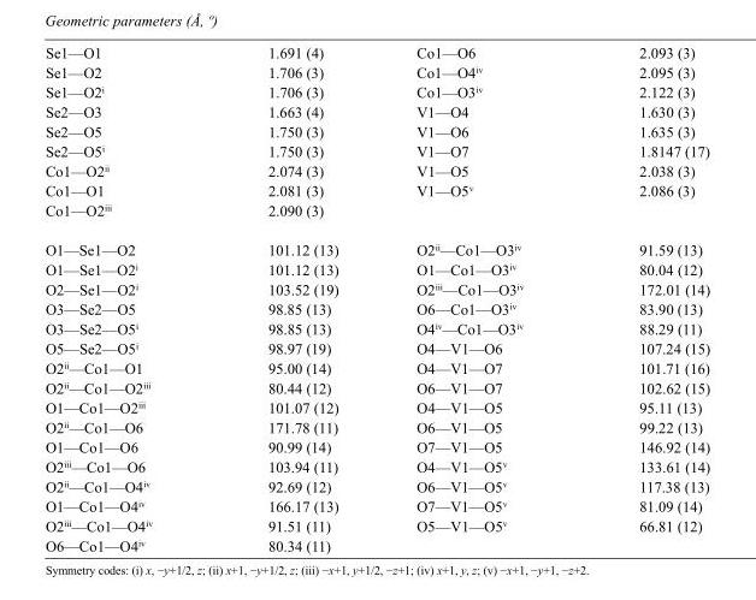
<table><tbody><tr><td>Se1—O1</td><td>1.691 (4)</td><td>Co1—O6</td><td>2.093 (3)</td></tr><tr><td>Se1—O2</td><td>1.706 (3)</td><td>Co1—O4<sup>iv</sup></td><td>2.095 (3)</td></tr><tr><td>Se1—O2<sup>i</sup></td><td>1.706 (3)</td><td>Co1—O3<sup>iv</sup></td><td>2.122 (3)</td></tr><tr><td>Se2—O3</td><td>1.663 (4)</td><td>V1—O4</td><td>1.630 (3)</td></tr><tr><td>Se2—O5</td><td>1.750 (3)</td><td>V1—O6</td><td>1.635 (3)</td></tr><tr><td>Se2—O5<sup>i</sup></td><td>1.750 (3)</td><td>V1—O7</td><td>1.8147 (17)</td></tr><tr><td>Co1—O2<sup>ii</sup></td><td>2.074 (3)</td><td>V1—O5</td><td>2.038 (3)</td></tr><tr><td>Co1—O1</td><td>2.081 (3)</td><td>V1—O5<sup>v</sup></td><td>2.086 (3)</td></tr><tr><td>Co1—O2<sup>iii</sup></td><td>2.090 (3)</td><td></td><td></td></tr><tr><td>O1—Se1—O2</td><td>101.12 (13)</td><td>O2<sup>ii</sup>—Co1—O3<sup>iv</sup></td><td>91.59 (13)</td></tr><tr><td>O1—Se1—O2<sup>i</sup></td><td>101.12 (13)</td><td>O1—Co1—O3<sup>iv</sup></td><td>80.04 (12)</td></tr><tr><td>O2—Se1—O2<sup>i</sup></td><td>103.52 (19)</td><td>O2<sup>iii</sup>—Co1—O3<sup>iv</sup></td><td>172.01 (14)</td></tr><tr><td>O3—Se2—O5</td><td>98.85 (13)</td><td>O6—Co1—O3<sup>iv</sup></td><td>83.90 (13)</td></tr><tr><td>O3—Se2—O5<sup>i</sup></td><td>98.85 (13)</td><td>O4<sup>iv</sup>—Co1—O3<sup>iv</sup></td><td>88.29 (11)</td></tr><tr><td>O5—Se2—O5<sup>i</sup></td><td>98.97 (19)</td><td>O4—V1—O6</td><td>107.24 (15)</td></tr><tr><td>O2<sup>ii</sup>—Co1—O1</td><td>95.00 (14)</td><td>O4—V1—O7</td><td>101.71 (16)</td></tr><tr><td>O2<sup>ii</sup>—Co1—O2<sup>iii</sup></td><td>80.44 (12)</td><td>O6—V1—O7</td><td>102.62 (15)</td></tr><tr><td>O1—Co1—O2<sup>iii</sup></td><td>101.07 (12)</td><td>O4—V1—O5</td><td>95.11 (13)</td></tr><tr><td>O2<sup>ii</sup>—Co1—O6</td><td>171.78 (11)</td><td>O6—V1—O5</td><td>99.22 (13)</td></tr><tr><td>O1—Co1—O6</td><td>90.99 (14)</td><td>O7—V1—O5</td><td>146.92 (14)</td></tr><tr><td>O2<sup>iii</sup>—Co1—O6</td><td>103.94 (11)</td><td>O4—V1—O5<sup>v</sup></td><td>133.61 (14)</td></tr><tr><td>O2<sup>ii</sup>—Co1—O4<sup>iv</sup></td><td>92.69 (12)</td><td>O6—V1—O5<sup>v</sup></td><td>117.38 (13)</td></tr><tr><td>O1—Co1—O4<sup>iv</sup></td><td>166.17 (13)</td><td>O7—V1—O5<sup>v</sup></td><td>81.09 (14)</td></tr><tr><td>O2<sup>iii</sup>—Co1—O4<sup>iv</sup></td><td>91.51 (11)</td><td>O5—V1—O5<sup>v</sup></td><td>66.81 (12)</td></tr><tr><td>O6—Co1—O4<sup>iv</sup></td><td>80.34 (11)</td><td></td><td></td></tr></tbody></table>